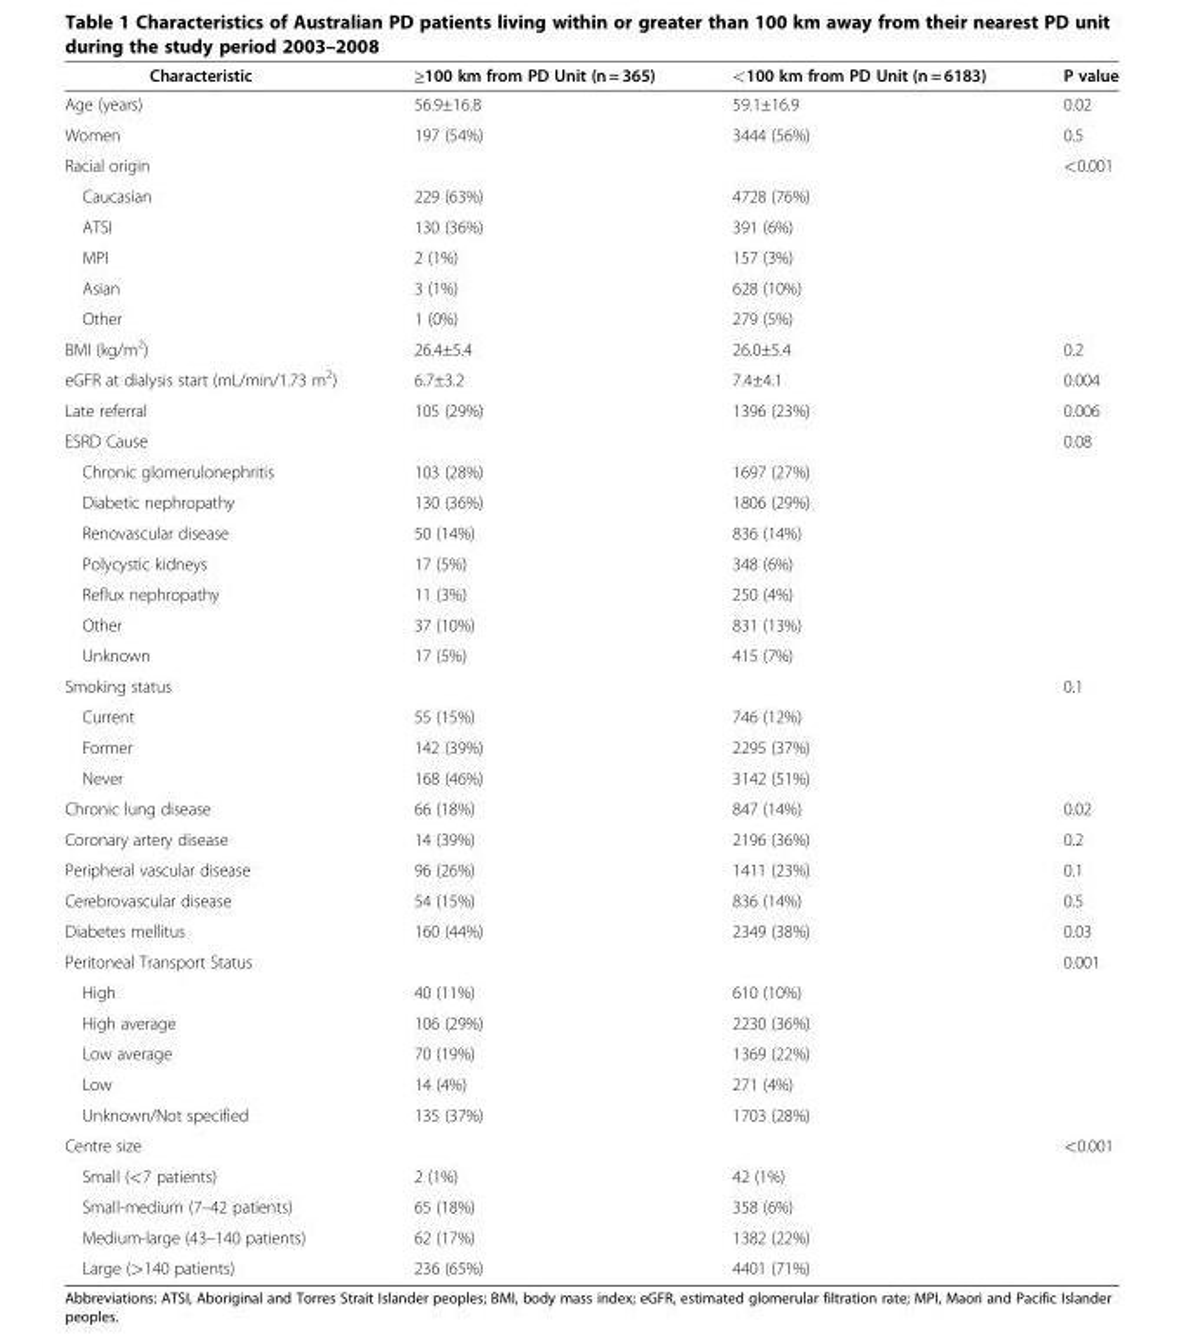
<table><thead><tr><td>Characteristic</td><td>≥100 km from PD Unit (n = 365)</td><td>&lt;100 km from PD Unit (n = 6183)</td><td>P value</td></tr></thead><tbody><tr><td>Age (years)</td><td>56.9±16.8</td><td>59.1±16.9</td><td>0.02</td></tr><tr><td>Women</td><td>197 (54%)</td><td>3444 (56%)</td><td>0.5</td></tr><tr><td>Racial origin</td><td></td><td></td><td>&lt;0.001</td></tr><tr><td>Caucasian</td><td>229 (63%)</td><td>4728 (76%)</td><td></td></tr><tr><td>ATSI</td><td>130 (36%)</td><td>391 (6%)</td><td></td></tr><tr><td>MPI</td><td>2 (1%)</td><td>157 (3%)</td><td></td></tr><tr><td>Asian</td><td>3 (1%)</td><td>628 (10%)</td><td></td></tr><tr><td>Other</td><td>1 (0%)</td><td>279 (5%)</td><td></td></tr><tr><td>BMI (kg/m<sup>2</sup>)</td><td>26.4±5.4</td><td>26.0±5.4</td><td>0.2</td></tr><tr><td>eGFR at dialysis start (mL/min/1.73 m<sup>2</sup>)</td><td>6.7±3.2</td><td>7.4±4.1</td><td>0.004</td></tr><tr><td>Late referral</td><td>105 (29%)</td><td>1396 (23%)</td><td>0.006</td></tr><tr><td>ESRD Cause</td><td></td><td></td><td>0.08</td></tr><tr><td>Chronic glomerulonephritis</td><td>103 (28%)</td><td>1697 (27%)</td><td></td></tr><tr><td>Diabetic nephropathy</td><td>130 (36%)</td><td>1806 (29%)</td><td></td></tr><tr><td>Renovascular disease</td><td>50 (14%)</td><td>836 (14%)</td><td></td></tr><tr><td>Polycystic kidneys</td><td>17 (5%)</td><td>348 (6%)</td><td></td></tr><tr><td>Reflux nephropathy</td><td>11 (3%)</td><td>250 (4%)</td><td></td></tr><tr><td>Other</td><td>37 (10%)</td><td>831 (13%)</td><td></td></tr><tr><td>Unknown</td><td>17 (5%)</td><td>415 (7%)</td><td></td></tr><tr><td>Smoking status</td><td></td><td></td><td>0.1</td></tr><tr><td>Current</td><td>55 (15%)</td><td>746 (12%)</td><td></td></tr><tr><td>Former</td><td>142 (39%)</td><td>2295 (37%)</td><td></td></tr><tr><td>Never</td><td>168 (46%)</td><td>3142 (51%)</td><td></td></tr><tr><td>Chronic lung disease</td><td>66 (18%)</td><td>847 (14%)</td><td>0.02</td></tr><tr><td>Coronary artery disease</td><td>14 (39%)</td><td>2196 (36%)</td><td>0.2</td></tr><tr><td>Peripheral vascular disease</td><td>96 (26%)</td><td>1411 (23%)</td><td>0.1</td></tr><tr><td>Cerebrovascular disease</td><td>54 (15%)</td><td>836 (14%)</td><td>0.5</td></tr><tr><td>Diabetes mellitus</td><td>160 (44%)</td><td>2349 (38%)</td><td>0.03</td></tr><tr><td>Peritoneal Transport Status</td><td></td><td></td><td>0.001</td></tr><tr><td>High</td><td>40 (11%)</td><td>610 (10%)</td><td></td></tr><tr><td>High average</td><td>106 (29%)</td><td>2230 (36%)</td><td></td></tr><tr><td>Low average</td><td>70 (19%)</td><td>1369 (22%)</td><td></td></tr><tr><td>Low</td><td>14 (4%)</td><td>271 (4%)</td><td></td></tr><tr><td>Unknown/Not specified</td><td>135 (37%)</td><td>1703 (28%)</td><td></td></tr><tr><td>Centre size</td><td></td><td></td><td>&lt;0.001</td></tr><tr><td>Small (&lt;7 patients)</td><td>2 (1%)</td><td>42 (1%)</td><td></td></tr><tr><td>Small-medium (7–42 patients)</td><td>65 (18%)</td><td>358 (6%)</td><td></td></tr><tr><td>Medium-large (43–140 patients)</td><td>62 (17%)</td><td>1382 (22%)</td><td></td></tr><tr><td>Large (&gt;140 patients)</td><td>236 (65%)</td><td>4401 (71%)</td><td></td></tr></tbody></table>